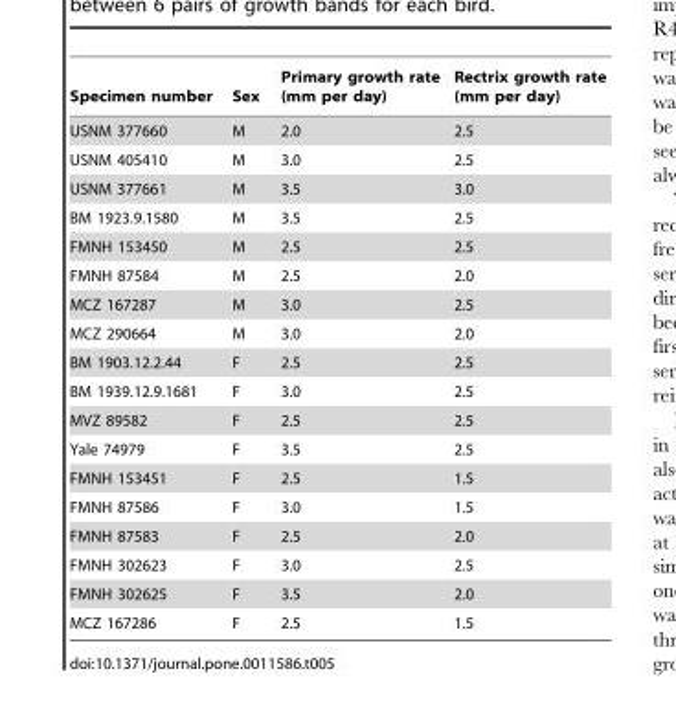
<table><thead><tr><td>Specimen number</td><td>Sex</td><td>Primary growth rate (mm per day)</td><td>Rectrix growth rate (mm per day)</td></tr></thead><tbody><tr><td>USNM 377660</td><td>M</td><td>2.0</td><td>2.5</td></tr><tr><td>USNM 405410</td><td>M</td><td>3.0</td><td>2.5</td></tr><tr><td>USNM 377661</td><td>M</td><td>3.5</td><td>3.0</td></tr><tr><td>BM 1923.9.1580</td><td>M</td><td>3.5</td><td>2.5</td></tr><tr><td>FMNH 153450</td><td>M</td><td>2.5</td><td>2.5</td></tr><tr><td>FMNH 87584</td><td>M</td><td>2.5</td><td>2.0</td></tr><tr><td>MCZ 167287</td><td>M</td><td>3.0</td><td>2.5</td></tr><tr><td>MCZ 290664</td><td>M</td><td>3.0</td><td>2.0</td></tr><tr><td>BM 1903.12.2.44</td><td>F</td><td>2.5</td><td>2.5</td></tr><tr><td>BM 1939.12.9.1681</td><td>F</td><td>3.0</td><td>2.5</td></tr><tr><td>MVZ 89582</td><td>F</td><td>2.5</td><td>2.5</td></tr><tr><td>Yale 74979</td><td>F</td><td>3.5</td><td>2.5</td></tr><tr><td>FMNH 153451</td><td>F</td><td>2.5</td><td>1.5</td></tr><tr><td>FMNH 87586</td><td>F</td><td>3.0</td><td>1.5</td></tr><tr><td>FMNH 87583</td><td>F</td><td>2.5</td><td>2.0</td></tr><tr><td>FMNH 302623</td><td>F</td><td>3.0</td><td>2.5</td></tr><tr><td>FMNH 302625</td><td>F</td><td>3.5</td><td>2.0</td></tr><tr><td>MCZ 167286</td><td>F</td><td>2.5</td><td>1.5</td></tr></tbody></table>